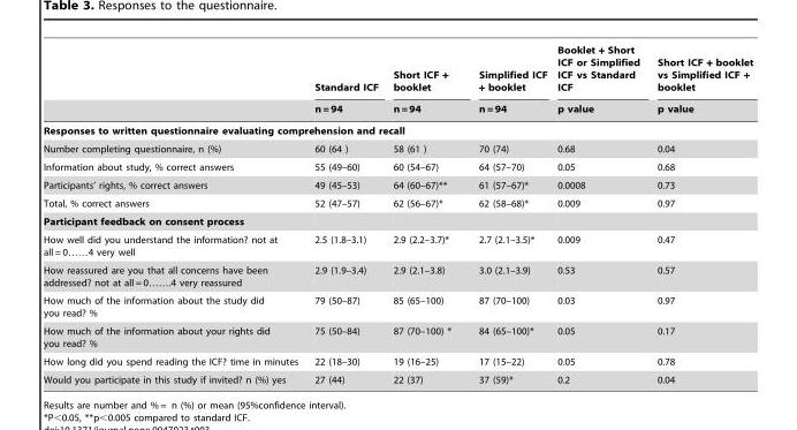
<table><thead><tr><td rowspan="2"></td><td rowspan="2">Standard ICF n = 94</td><td rowspan="2">Short ICF + booklet n = 94</td><td rowspan="2">Simplified ICF + booklet n = 94</td><td rowspan="2">Booklet + Short ICF or Simplified ICF vs Standard ICF p value</td><td rowspan="2">Short ICF + booklet vs Simplified ICF + booklet p value</td></tr><tr></tr></thead><tbody><tr><td colspan="6">Responses to written questionnaire evaluating comprehension and recall</td></tr><tr><td>Number completing questionnaire, n (%)</td><td>60 (64 )</td><td>58 (61 )</td><td>70 (74)</td><td>0.68</td><td>0.04</td></tr><tr><td>Information about study, % correct answers</td><td>55 (49–60)</td><td>60 (54–67)</td><td>64 (57–70)</td><td>0.05</td><td>0.68</td></tr><tr><td>Participants’ rights, % correct answers</td><td>49 (45–53)</td><td>64 (60–67)**</td><td>61 (57–67)*</td><td>0.0008</td><td>0.73</td></tr><tr><td>Total, % correct answers</td><td>52 (47–57)</td><td>62 (56–67)*</td><td>62 (58–68)*</td><td>0.009</td><td>0.97</td></tr><tr><td colspan="6">Participant feedback on consent process</td></tr><tr><td>How well did you understand the information? not at all = 0……4 very well</td><td>2.5 (1.8–3.1)</td><td>2.9 (2.2–3.7)*</td><td>2.7 (2.1–3.5)*</td><td>0.009</td><td>0.47</td></tr><tr><td>How reassured are you that all concerns have been addressed? not at all = 0…….4 very reassured</td><td>2.9 (1.9–3.4)</td><td>2.9 (2.1–3.8)</td><td>3.0 (2.1–3.9)</td><td>0.53</td><td>0.57</td></tr><tr><td>How much of the information about the study did you read? %</td><td>79 (50–87)</td><td>85 (65–100)</td><td>87 (70–100)</td><td>0.03</td><td>0.97</td></tr><tr><td>How much of the information about your rights did you read? %</td><td>75 (50–84)</td><td>87 (70–100) *</td><td>84 (65–100)*</td><td>0.05</td><td>0.17</td></tr><tr><td>How long did you spend reading the ICF? time in minutes</td><td>22 (18–30)</td><td>19 (16–25)</td><td>17 (15–22)</td><td>0.05</td><td>0.78</td></tr><tr><td>Would you participate in this study if invited? n (%) yes</td><td>27 (44)</td><td>22 (37)</td><td>37 (59)*</td><td>0.2</td><td>0.04</td></tr></tbody></table>